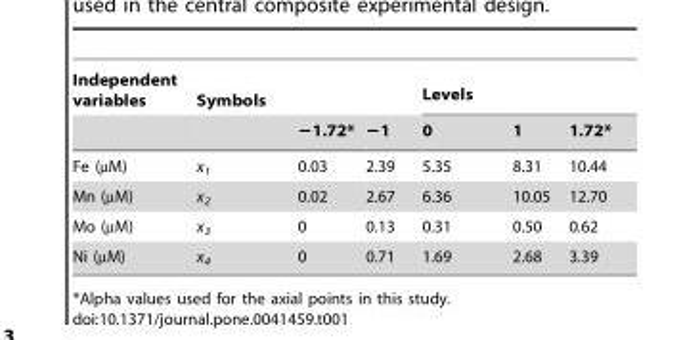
<table><thead><tr><td rowspan="2">Independent variables</td><td rowspan="2">Symbols</td><td rowspan="2">−1.72*</td><td rowspan="2">−1</td><td colspan="3">Levels</td></tr><tr><td>0</td><td>1</td><td>1.72*</td></tr></thead><tbody><tr><td>Fe (µM)</td><td>x<sub>1</sub></td><td>0.03</td><td>2.39</td><td>5.35</td><td>8.31</td><td>10.44</td></tr><tr><td>Mn (µM)</td><td>x<sub>2</sub></td><td>0.02</td><td>2.67</td><td>6.36</td><td>10.05</td><td>12.70</td></tr><tr><td>Mo (µM)</td><td>x<sub>3</sub></td><td>0</td><td>0.13</td><td>0.31</td><td>0.50</td><td>0.62</td></tr><tr><td>Ni (µM)</td><td>x<sub>4</sub></td><td>0</td><td>0.71</td><td>1.69</td><td>2.68</td><td>3.39</td></tr></tbody></table>